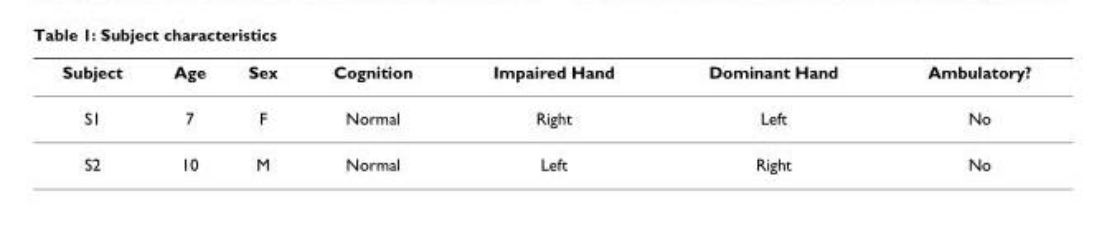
<table><thead><tr><td>Subject</td><td>Age</td><td>Sex</td><td>Cognition</td><td>Impaired Hand</td><td>Dominant Hand</td><td>Ambulatory?</td></tr></thead><tbody><tr><td>S1</td><td>7</td><td>F</td><td>Normal</td><td>Right</td><td>Left</td><td>No</td></tr><tr><td>S2</td><td>10</td><td>M</td><td>Normal</td><td>Left</td><td>Right</td><td>No</td></tr></tbody></table>